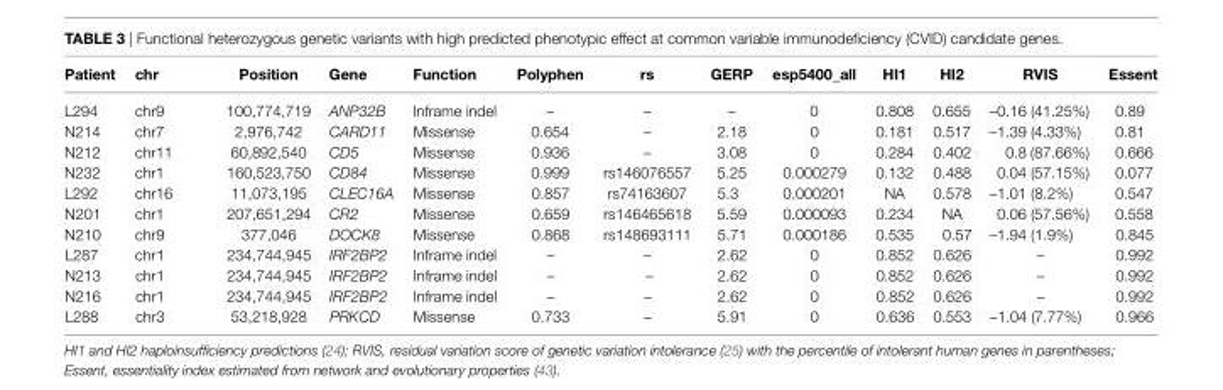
<table><thead><tr><td>Patient</td><td>chr</td><td>Position</td><td>gene</td><td>Function</td><td>Polyphen</td><td>rs</td><td>gerP</td><td>esp5400_all</td><td>hi1</td><td>hi2</td><td>rVis</td><td>essent</td></tr></thead><tbody><tr><td>L294</td><td>chr9</td><td>100,774,719</td><td>ANP32B</td><td>Inframe indel</td><td>–</td><td>–</td><td>–</td><td>0</td><td>0.808</td><td>0.655</td><td>–0.16 (41.25%)</td><td>0.89</td></tr><tr><td>N214</td><td>chr7</td><td>2,976,742</td><td>CARD11</td><td>Missense</td><td>0.654</td><td>–</td><td>2.18</td><td>0</td><td>0.181</td><td>0.517</td><td>–1.39 (4.33%)</td><td>0.81</td></tr><tr><td>N212</td><td>chr11</td><td>60,892,540</td><td>CD5</td><td>Missense</td><td>0.936</td><td>–</td><td>3.08</td><td>0</td><td>0.284</td><td>0.402</td><td>0.8 (87.66%)</td><td>0.666</td></tr><tr><td>N232</td><td>chr1</td><td>160,523,750</td><td>CD84</td><td>Missense</td><td>0.999</td><td>rs146076557</td><td>5.25</td><td>0.000279</td><td>0.132</td><td>0.488</td><td>0.04 (57.15%)</td><td>0.077</td></tr><tr><td>L292</td><td>chr16</td><td>11,073,195</td><td>CLEC16A</td><td>Missense</td><td>0.857</td><td>rs74163607</td><td>5.3</td><td>0.000201</td><td>NA</td><td>0.578</td><td>–1.01 (8.2%)</td><td>0.547</td></tr><tr><td>N201</td><td>chr1</td><td>207,651,294</td><td>CR2</td><td>Missense</td><td>0.659</td><td>rs146465618</td><td>5.59</td><td>0.000093</td><td>0.234</td><td>NA</td><td>0.06 (57.56%)</td><td>0.558</td></tr><tr><td>N210</td><td>chr9</td><td>377,046</td><td>DOCK8</td><td>Missense</td><td>0.868</td><td>rs148693111</td><td>5.71</td><td>0.000186</td><td>0.535</td><td>0.57</td><td>–1.94 (1.9%)</td><td>0.845</td></tr><tr><td>L287</td><td>chr1</td><td>234,744,945</td><td>IRF2BP2</td><td>Inframe indel</td><td>–</td><td>–</td><td>2.62</td><td>0</td><td>0.852</td><td>0.626</td><td>–</td><td>0.992</td></tr><tr><td>N213</td><td>chr1</td><td>234,744,945</td><td>IRF2BP2</td><td>Inframe indel</td><td>–</td><td>–</td><td>2.62</td><td>0</td><td>0.852</td><td>0.626</td><td>–</td><td>0.992</td></tr><tr><td>N216</td><td>chr1</td><td>234,744,945</td><td>IRF2BP2</td><td>Inframe indel</td><td>–</td><td>–</td><td>2.62</td><td>0</td><td>0.852</td><td>0.626</td><td>–</td><td>0.992</td></tr><tr><td>L288</td><td>chr3</td><td>53,218,928</td><td>PRKCD</td><td>Missense</td><td>0.733</td><td>–</td><td>5.91</td><td>0</td><td>0.636</td><td>0.553</td><td>–1.04 (7.77%)</td><td>0.966</td></tr></tbody></table>